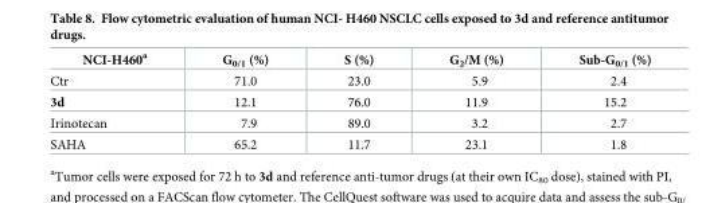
<table><thead><tr><td>NCI-H460<sup>a</sup></td><td>G<sub>0/1</sub> (%)</td><td>S (%)</td><td>G<sub>2</sub>/M (%)</td><td>Sub-G<sub>0/1</sub> (%)</td></tr></thead><tbody><tr><td>Ctr</td><td>71.0</td><td>23.0</td><td>5.9</td><td>2.4</td></tr><tr><td>3d</td><td>12.1</td><td>76.0</td><td>11.9</td><td>15.2</td></tr><tr><td>Irinotecan</td><td>7.9</td><td>89.0</td><td>3.2</td><td>2.7</td></tr><tr><td>SAHA</td><td>65.2</td><td>11.7</td><td>23.1</td><td>1.8</td></tr></tbody></table>